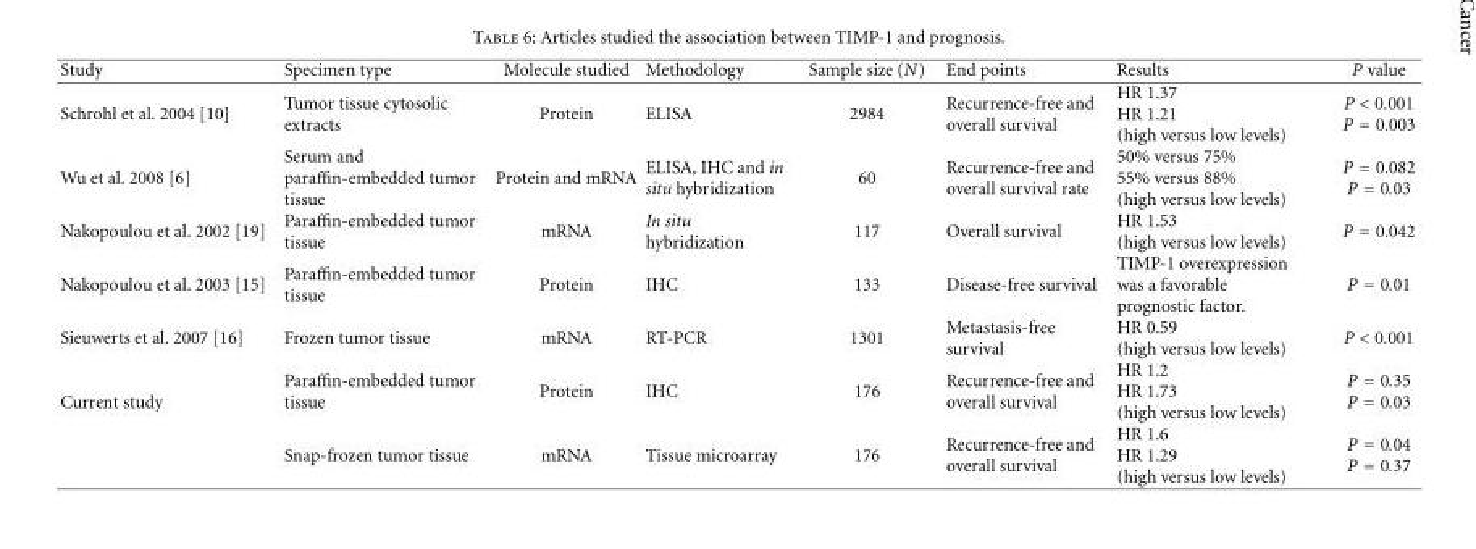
<table><thead><tr><td>Study</td><td>Specimen type</td><td>Molecule studied</td><td>Methodology</td><td>Sample size (N)</td><td>End points</td><td>Results</td><td>P value</td></tr></thead><tbody><tr><td>Schrohl et al. 2004 [10]</td><td>Tumor tissue cytosolic extracts</td><td>Protein</td><td>ELISA</td><td>2984</td><td>Recurrence-free and overall survival</td><td>HR 1.37 HR 1.21 (high versus low levels)</td><td>P &lt; 0.001 P = 0.003</td></tr><tr><td>Wu et al. 2008 [6]</td><td>Serum and paraffin-embedded tumor tissue</td><td>Protein and mRNA</td><td>ELISA, IHC and in situ hybridization</td><td>60</td><td>Recurrence-free and overall survival rate</td><td>50% versus 75% 55% versus 88% (high versus low levels)</td><td>P = 0.082 P = 0.03</td></tr><tr><td>Nakopoulou et al. 2002 [19]</td><td>Paraffin-embedded tumor tissue</td><td>mRNA</td><td>In situ hybridization</td><td>117</td><td>Overall survival</td><td>HR 1.53 (high versus low levels)</td><td>P = 0.042</td></tr><tr><td>Nakopoulou et al. 2003 [15]</td><td>Paraffin-embedded tumor tissue</td><td>Protein</td><td>IHC</td><td>133</td><td>Disease-free survival</td><td>TIMP-1 overexpression was a favorable prognostic factor.</td><td>P = 0.01</td></tr><tr><td>Sieuwerts et al. 2007 [16]</td><td>Frozen tumor tissue</td><td>mRNA</td><td>RT-PCR</td><td>1301</td><td>Metastasis-free survival</td><td>HR 0.59 (high versus low levels)</td><td>P &lt; 0.001</td></tr><tr><td rowspan="2">Current study</td><td>Paraffin-embedded tumor tissue</td><td>Protein</td><td>IHC</td><td>176</td><td>Recurrence-free and overall survival</td><td>HR 1.2 HR 1.73 (high versus low levels)</td><td>P = 0.35 P = 0.03</td></tr><tr><td>Snap-frozen tumor tissue</td><td>mRNA</td><td>Tissue microarray</td><td>176</td><td>Recurrence-free and overall survival</td><td>HR 1.6 HR 1.29 (high versus low levels)</td><td>P = 0.04 P = 0.37</td></tr></tbody></table>